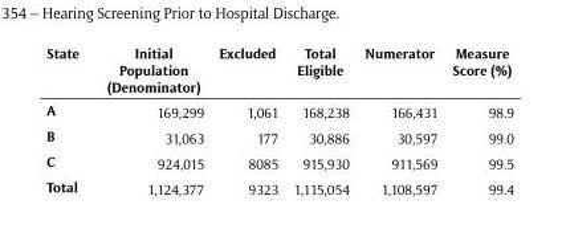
<table><thead><tr><td>State</td><td>Initial Population (Denominator)</td><td>Excluded</td><td>Total Eligible</td><td>Numerator</td><td>Measure Score (%)</td></tr></thead><tbody><tr><td>A</td><td>169,299</td><td>1,061</td><td>168,238</td><td>166,431</td><td>98.9</td></tr><tr><td>B</td><td>31,063</td><td>177</td><td>30,886</td><td>30,597</td><td>99.0</td></tr><tr><td>C</td><td>924,015</td><td>8085</td><td>915,930</td><td>911,569</td><td>99.5</td></tr><tr><td>Total</td><td>1,124,377</td><td>9323</td><td>1,115,054</td><td>1,108,597</td><td>99.4</td></tr></tbody></table>